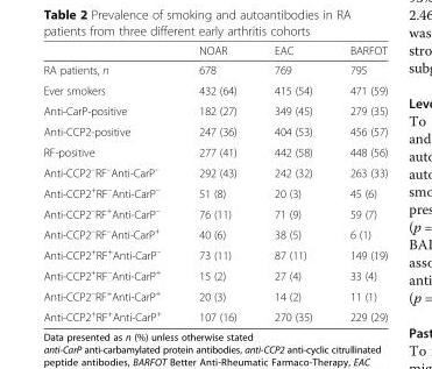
<table><thead><tr><td></td><td>NOAR</td><td>EAC</td><td>BARFOT</td></tr></thead><tbody><tr><td>RA patients, n</td><td>678</td><td>769</td><td>795</td></tr><tr><td>Ever smokers</td><td>432 (64)</td><td>415 (54)</td><td>471 (59)</td></tr><tr><td>Anti-CarP-positive</td><td>182 (27)</td><td>349 (45)</td><td>279 (35)</td></tr><tr><td>Anti-CCP2-positive</td><td>247 (36)</td><td>404 (53)</td><td>456 (57)</td></tr><tr><td>RF-positive</td><td>277 (41)</td><td>442 (58)</td><td>448 (56)</td></tr><tr><td>Anti-CCP2<sup>–</sup>RF<sup>–</sup>Anti-CarP<sup>–</sup></td><td>292 (43)</td><td>242 (32)</td><td>263 (33)</td></tr><tr><td>Anti-CCP2<sup>+</sup>RF<sup>–</sup>Anti-CarP<sup>–</sup></td><td>51 (8)</td><td>20 (3)</td><td>45 (6)</td></tr><tr><td>Anti-CCP2<sup>–</sup>RF<sup>+</sup>Anti-CarP<sup>–</sup></td><td>76 (11)</td><td>71 (9)</td><td>59 (7)</td></tr><tr><td>Anti-CCP2<sup>–</sup>RF<sup>–</sup>Anti-CarP<sup>+</sup></td><td>40 (6)</td><td>38 (5)</td><td>6 (1)</td></tr><tr><td>Anti-CCP2<sup>+</sup>RF<sup>+</sup>Anti-CarP<sup>–</sup></td><td>73 (11)</td><td>87 (11)</td><td>149 (19)</td></tr><tr><td>Anti-CCP2<sup>+</sup>RF<sup>–</sup>Anti-CarP<sup>+</sup></td><td>15 (2)</td><td>27 (4)</td><td>33 (4)</td></tr><tr><td>Anti-CCP2<sup>–</sup>RF<sup>+</sup>Anti-CarP<sup>+</sup></td><td>20 (3)</td><td>14 (2)</td><td>11 (1)</td></tr><tr><td>Anti-CCP2<sup>+</sup>RF<sup>+</sup>Anti-CarP<sup>+</sup></td><td>107 (16)</td><td>270 (35)</td><td>229 (29)</td></tr></tbody></table>